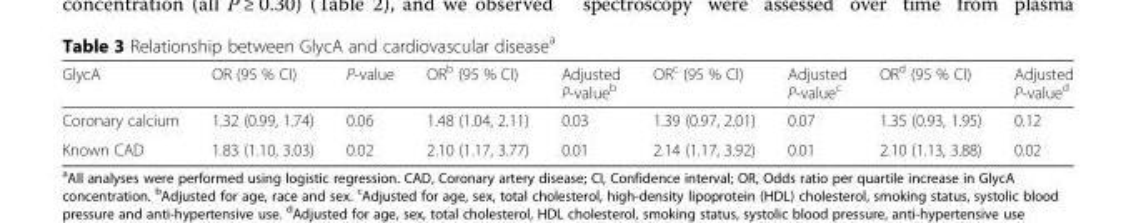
<table><thead><tr><td>GlycA</td><td>OR (95 % CI)</td><td>P-value</td><td>OR<sup>b</sup> (95 % CI)</td><td>Adjusted P-value<sup>b</sup></td><td>OR<sup>c</sup> (95 % CI)</td><td>Adjusted P-value<sup>c</sup></td><td>OR<sup>d</sup> (95 % CI)</td><td>Adjusted P-value<sup>d</sup></td></tr></thead><tbody><tr><td>Coronary calcium</td><td>1.32 (0.99, 1.74)</td><td>0.06</td><td>1.48 (1.04, 2.11)</td><td>0.03</td><td>1.39 (0.97, 2.01)</td><td>0.07</td><td>1.35 (0.93, 1.95)</td><td>0.12</td></tr><tr><td>Known CAD</td><td>1.83 (1.10, 3.03)</td><td>0.02</td><td>2.10 (1.17, 3.77)</td><td>0.01</td><td>2.14 (1.17, 3.92)</td><td>0.01</td><td>2.10 (1.13, 3.88)</td><td>0.02</td></tr></tbody></table>